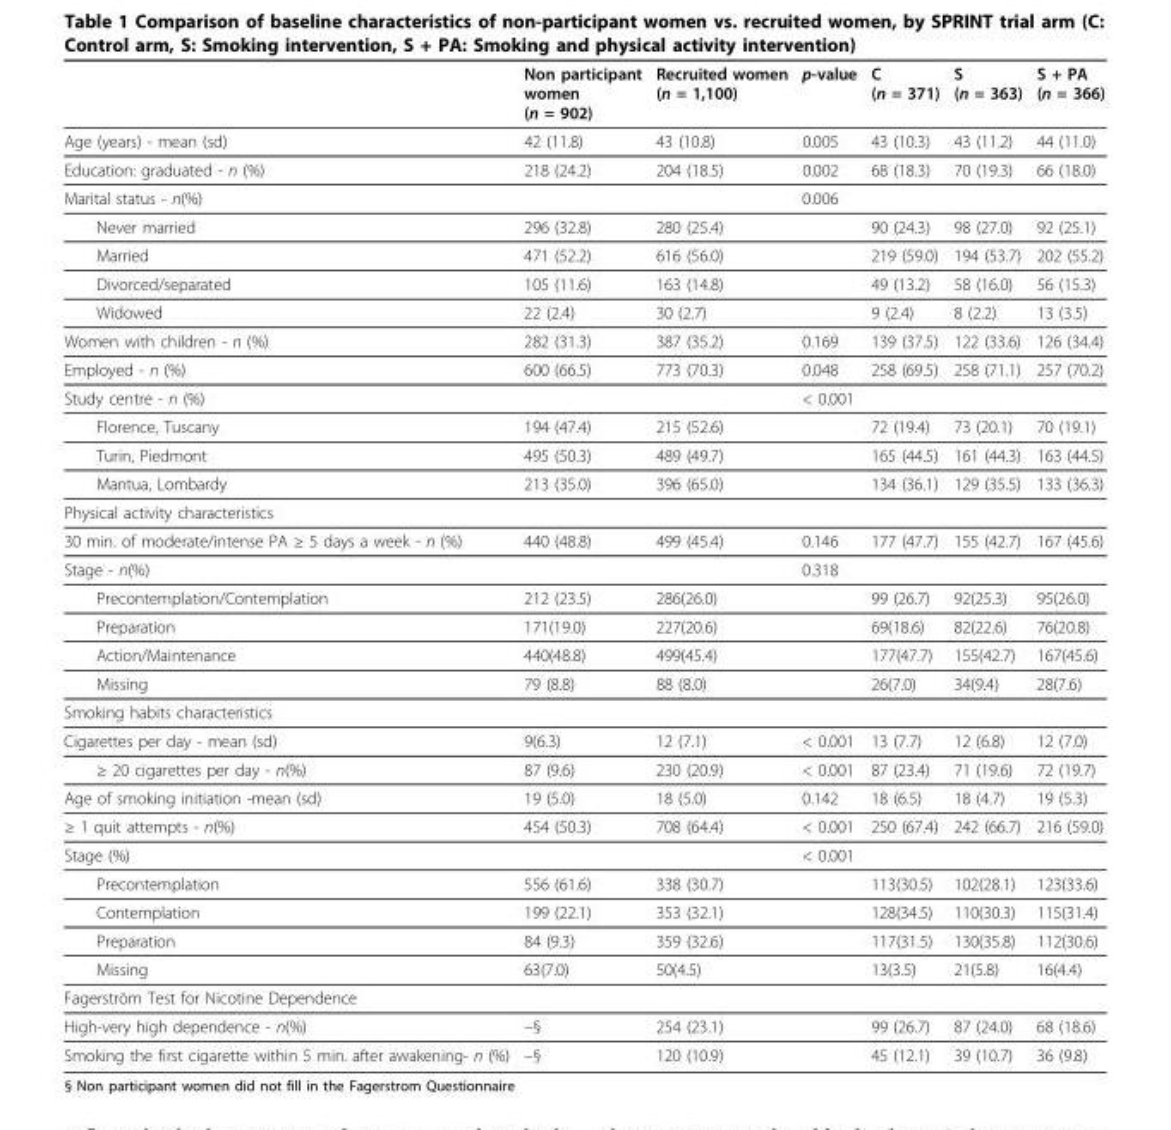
<table><thead><tr><td></td><td>Non participant women (n = 902)</td><td>Recruited women (n = 1,100)</td><td>p-value</td><td>C (n = 371)</td><td>S (n = 363)</td><td>S + PA (n = 366)</td></tr></thead><tbody><tr><td>Age (years) - mean (sd)</td><td>42 (11.8)</td><td>43 (10.8)</td><td>0.005</td><td>43 (10.3)</td><td>43 (11.2)</td><td>44 (11.0)</td></tr><tr><td>Education: graduated - n (%)</td><td>218 (24.2)</td><td>204 (18.5)</td><td>0.002</td><td>68 (18.3)</td><td>70 (19.3)</td><td>66 (18.0)</td></tr><tr><td>Marital status - n(%)</td><td></td><td></td><td>0.006</td><td></td><td></td><td></td></tr><tr><td>Never married</td><td>296 (32.8)</td><td>280 (25.4)</td><td></td><td>90 (24.3)</td><td>98 (27.0)</td><td>92 (25.1)</td></tr><tr><td>Married</td><td>471 (52.2)</td><td>616 (56.0)</td><td></td><td>219 (59.0)</td><td>194 (53.7)</td><td>202 (55.2)</td></tr><tr><td>Divorced/separated</td><td>105 (11.6)</td><td>163 (14.8)</td><td></td><td>49 (13.2)</td><td>58 (16.0)</td><td>56 (15.3)</td></tr><tr><td>Widowed</td><td>22 (2.4)</td><td>30 (2.7)</td><td></td><td>9 (2.4)</td><td>8 (2.2)</td><td>13 (3.5)</td></tr><tr><td>Women with children - n (%)</td><td>282 (31.3)</td><td>387 (35.2)</td><td>0.169</td><td>139 (37.5)</td><td>122 (33.6)</td><td>126 (34.4)</td></tr><tr><td>Employed - n (%)</td><td>600 (66.5)</td><td>773 (70.3)</td><td>0.048</td><td>258 (69.5)</td><td>258 (71.1)</td><td>257 (70.2)</td></tr><tr><td>Study centre - n (%)</td><td></td><td></td><td>&lt; 0.001</td><td></td><td></td><td></td></tr><tr><td>Florence, Tuscany</td><td>194 (47.4)</td><td>215 (52.6)</td><td></td><td>72 (19.4)</td><td>73 (20.1)</td><td>70 (19.1)</td></tr><tr><td>Turin, Piedmont</td><td>495 (50.3)</td><td>489 (49.7)</td><td></td><td>165 (44.5)</td><td>161 (44.3)</td><td>163 (44.5)</td></tr><tr><td>Mantua, Lombardy</td><td>213 (35.0)</td><td>396 (65.0)</td><td></td><td>134 (36.1)</td><td>129 (35.5)</td><td>133 (36.3)</td></tr><tr><td colspan="7">Physical activity characteristics</td></tr><tr><td>30 min. of moderate/intense PA ≥ 5 days a week - n (%)</td><td>440 (48.8)</td><td>499 (45.4)</td><td>0.146</td><td>177 (47.7)</td><td>155 (42.7)</td><td>167 (45.6)</td></tr><tr><td>Stage - n(%)</td><td></td><td></td><td>0.318</td><td></td><td></td><td></td></tr><tr><td>Precontemplation/Contemplation</td><td>212 (23.5)</td><td>286(26.0)</td><td></td><td>99 (26.7)</td><td>92(25.3)</td><td>95(26.0)</td></tr><tr><td>Preparation</td><td>171(19.0)</td><td>227(20.6)</td><td></td><td>69(18.6)</td><td>82(22.6)</td><td>76(20.8)</td></tr><tr><td>Action/Maintenance</td><td>440(48.8)</td><td>499(45.4)</td><td></td><td>177(47.7)</td><td>155(42.7)</td><td>167(45.6)</td></tr><tr><td>Missing</td><td>79 (8.8)</td><td>88 (8.0)</td><td></td><td>26(7.0)</td><td>34(9.4)</td><td>28(7.6)</td></tr><tr><td colspan="7">Smoking habits characteristics</td></tr><tr><td>Cigarettes per day - mean (sd)</td><td>9(6.3)</td><td>12 (7.1)</td><td>&lt; 0.001</td><td>13 (7.7)</td><td>12 (6.8)</td><td>12 (7.0)</td></tr><tr><td>≥ 20 cigarettes per day - n(%)</td><td>87 (9.6)</td><td>230 (20.9)</td><td>&lt; 0.001</td><td>87 (23.4)</td><td>71 (19.6)</td><td>72 (19.7)</td></tr><tr><td>Age of smoking initiation -mean (sd)</td><td>19 (5.0)</td><td>18 (5.0)</td><td>0.142</td><td>18 (6.5)</td><td>18 (4.7)</td><td>19 (5.3)</td></tr><tr><td>≥ 1 quit attempts - n(%)</td><td>454 (50.3)</td><td>708 (64.4)</td><td>&lt; 0.001</td><td>250 (67.4)</td><td>242 (66.7)</td><td>216 (59.0)</td></tr><tr><td>Stage (%)</td><td></td><td></td><td>&lt; 0.001</td><td></td><td></td><td></td></tr><tr><td>Precontemplation</td><td>556 (61.6)</td><td>338 (30.7)</td><td></td><td>113(30.5)</td><td>102(28.1)</td><td>123(33.6)</td></tr><tr><td>Contemplation</td><td>199 (22.1)</td><td>353 (32.1)</td><td></td><td>128(34.5)</td><td>110(30.3)</td><td>115(31.4)</td></tr><tr><td>Preparation</td><td>84 (9.3)</td><td>359 (32.6)</td><td></td><td>117(31.5)</td><td>130(35.8)</td><td>112(30.6)</td></tr><tr><td>Missing</td><td>63(7.0)</td><td>50(4.5)</td><td></td><td>13(3.5)</td><td>21(5.8)</td><td>16(4.4)</td></tr><tr><td colspan="7">Fagerström Test for Nicotine Dependence</td></tr><tr><td>High-very high dependence - n(%)</td><td>–§</td><td>254 (23.1)</td><td></td><td>99 (26.7)</td><td>87 (24.0)</td><td>68 (18.6)</td></tr><tr><td>Smoking the first cigarette within 5 min. after awakening- n (%)</td><td>–§</td><td>120 (10.9)</td><td></td><td>45 (12.1)</td><td>39 (10.7)</td><td>36 (9.8)</td></tr></tbody></table>